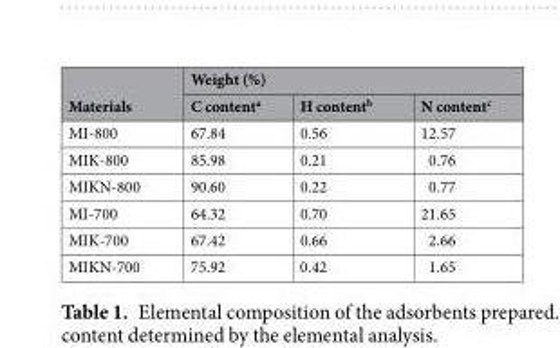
<table><thead><tr><td rowspan="2">Materials</td><td colspan="3">Weight (%)</td></tr><tr><td>C content<sup>a</sup></td><td>H content<sup>b</sup></td><td>N content<sup>c</sup></td></tr></thead><tbody><tr><td>MI-800</td><td>67.84</td><td>0.56</td><td>12.57</td></tr><tr><td>MIK-800</td><td>85.98</td><td>0.21</td><td>0.76</td></tr><tr><td>MIKN-800</td><td>90.60</td><td>0.22</td><td>0.77</td></tr><tr><td>MI-700</td><td>64.32</td><td>0.70</td><td>21.65</td></tr><tr><td>MIK-700</td><td>67.42</td><td>0.66</td><td>2.66</td></tr><tr><td>MIKN-700</td><td>75.92</td><td>0.42</td><td>1.65</td></tr></tbody></table>